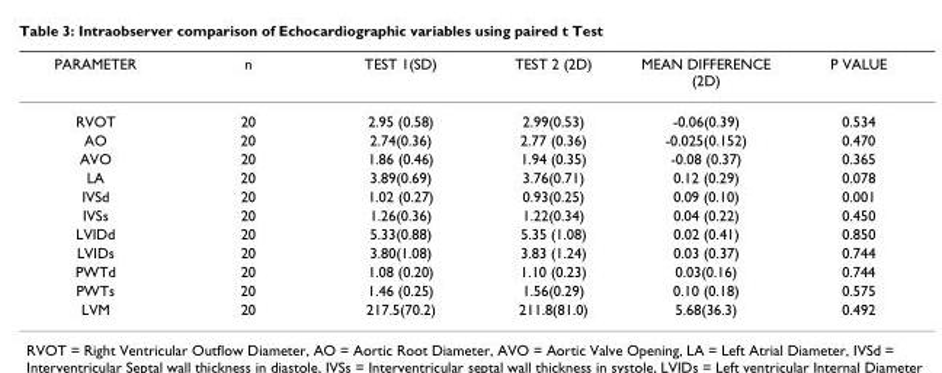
<table><thead><tr><td>PARAMETER</td><td>n</td><td>TEST 1(SD)</td><td>TEST 2 (2D)</td><td>MEAN DIFFERENCE (2D)</td><td>P VALUE</td></tr></thead><tbody><tr><td>RVOT</td><td>20</td><td>2.95 (0.58)</td><td>2.99(0.53)</td><td>-0.06(0.39)</td><td>0.534</td></tr><tr><td>AO</td><td>20</td><td>2.74(0.36)</td><td>2.77 (0.36)</td><td>-0.025(0.152)</td><td>0.470</td></tr><tr><td>AVO</td><td>20</td><td>1.86 (0.46)</td><td>1.94 (0.35)</td><td>-0.08 (0.37)</td><td>0.365</td></tr><tr><td>LA</td><td>20</td><td>3.89(0.69)</td><td>3.76(0.71)</td><td>0.12 (0.29)</td><td>0.078</td></tr><tr><td>IVSd</td><td>20</td><td>1.02 (0.27)</td><td>0.93(0.25)</td><td>0.09 (0.10)</td><td>0.001</td></tr><tr><td>IVSs</td><td>20</td><td>1.26(0.36)</td><td>1.22(0.34)</td><td>0.04 (0.22)</td><td>0.450</td></tr><tr><td>LVIDd</td><td>20</td><td>5.33(0.88)</td><td>5.35 (1.08)</td><td>0.02 (0.41)</td><td>0.850</td></tr><tr><td>LVIDs</td><td>20</td><td>3.80(1.08)</td><td>3.83 (1.24)</td><td>0.03 (0.37)</td><td>0.744</td></tr><tr><td>PWTd</td><td>20</td><td>1.08 (0.20)</td><td>1.10 (0.23)</td><td>0.03(0.16)</td><td>0.744</td></tr><tr><td>PWTs</td><td>20</td><td>1.46 (0.25)</td><td>1.56(0.29)</td><td>0.10 (0.18)</td><td>0.575</td></tr><tr><td>LVM</td><td>20</td><td>217.5(70.2)</td><td>211.8(81.0)</td><td>5.68(36.3)</td><td>0.492</td></tr></tbody></table>